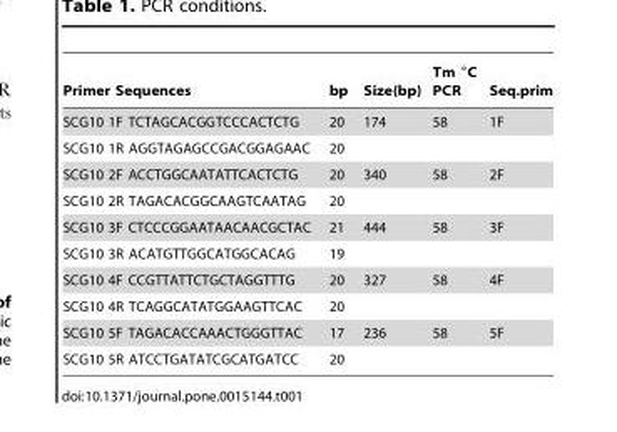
<table><thead><tr><td>Primer Sequences</td><td>bp</td><td>Size(bp)</td><td>Tm °C PCR</td><td>Seq.prim</td></tr></thead><tbody><tr><td>SCG10 1F TCTAGCACGGTCCCACTCTG</td><td>20</td><td>174</td><td>58</td><td>1F</td></tr><tr><td>SCG10 1R AGGTAGAGCCGACGGAGAAC</td><td>20</td><td></td><td></td><td></td></tr><tr><td>SCG10 2F ACCTGGCAATATTCACTCTG</td><td>20</td><td>340</td><td>58</td><td>2F</td></tr><tr><td>SCG10 2R TAGACACGGCAAGTCAATAG</td><td>20</td><td></td><td></td><td></td></tr><tr><td>SCG10 3F CTCCCGGAATAACAACGCTAC</td><td>21</td><td>444</td><td>58</td><td>3F</td></tr><tr><td>SCG10 3R ACATGTTGGCATGGCACAG</td><td>19</td><td></td><td></td><td></td></tr><tr><td>SCG10 4F CCGTTATTCTGCTAGGTTTG</td><td>20</td><td>327</td><td>58</td><td>4F</td></tr><tr><td>SCG10 4R TCAGGCATATGGAAGTTCAC</td><td>20</td><td></td><td></td><td></td></tr><tr><td>SCG10 5F TAGACACCAAACTGGGTTAC</td><td>17</td><td>236</td><td>58</td><td>5F</td></tr><tr><td>SCG10 5R ATCCTGATATCGCATGATCC</td><td>20</td><td></td><td></td><td></td></tr></tbody></table>